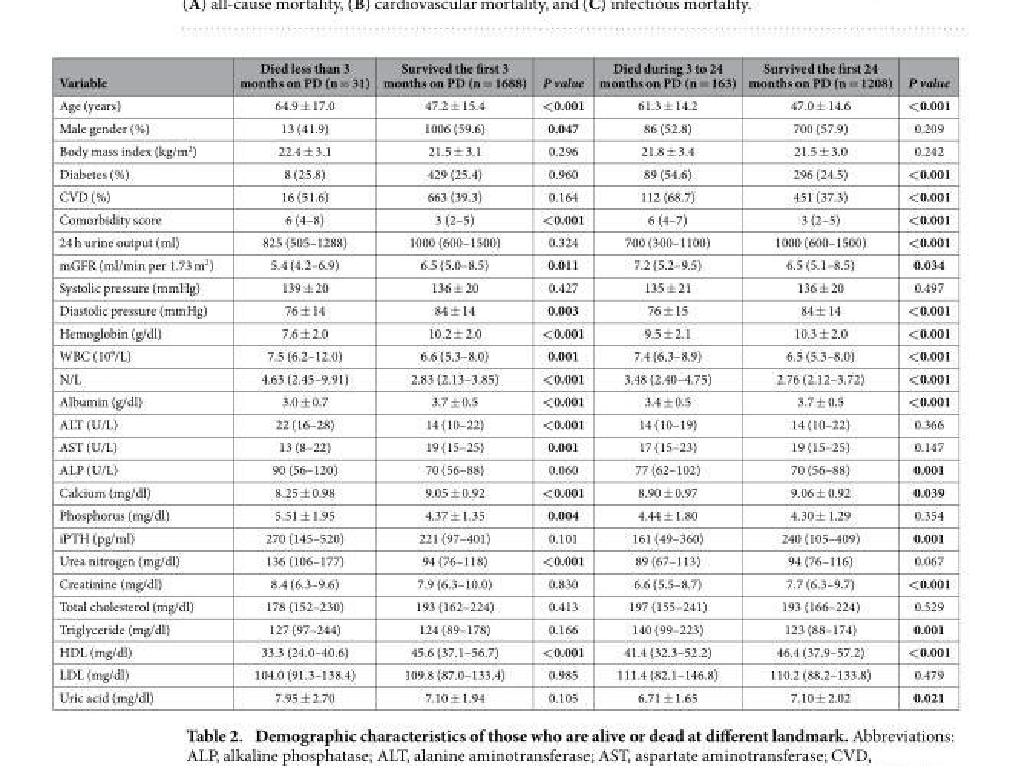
<table><thead><tr><td>Variable</td><td>Died less than 3 months on PD (n = 31)</td><td>Survived the first 3 months on PD (n = 1688)</td><td>P value</td><td>Died during 3 to 24 months on PD (n = 163)</td><td>Survived the first 24 months on PD (n = 1208)</td><td>P value</td></tr></thead><tbody><tr><td>Age (years)</td><td>64.9 ± 17.0</td><td>47.2 ± 15.4</td><td>&lt;0.001</td><td>61.3 ± 14.2</td><td>47.0 ± 14.6</td><td>&lt;0.001</td></tr><tr><td>Male gender (%)</td><td>13 (41.9)</td><td>1006 (59.6)</td><td>0.047</td><td>86 (52.8)</td><td>700 (57.9)</td><td>0.209</td></tr><tr><td>Body mass index (kg/m<sup>2</sup>)</td><td>22.4 ± 3.1</td><td>21.5 ± 3.1</td><td>0.296</td><td>21.8 ± 3.4</td><td>21.5 ± 3.0</td><td>0.242</td></tr><tr><td>Diabetes (%)</td><td>8 (25.8)</td><td>429 (25.4)</td><td>0.960</td><td>89 (54.6)</td><td>296 (24.5)</td><td>&lt;0.001</td></tr><tr><td>CVD (%)</td><td>16 (51.6)</td><td>663 (39.3)</td><td>0.164</td><td>112 (68.7)</td><td>451 (37.3)</td><td>&lt;0.001</td></tr><tr><td>Comorbidity score</td><td>6 (4–8)</td><td>3 (2–5)</td><td>&lt;0.001</td><td>6 (4–7)</td><td>3 (2–5)</td><td>&lt;0.001</td></tr><tr><td>24 h urine output (ml)</td><td>825 (505–1288)</td><td>1000 (600–1500)</td><td>0.324</td><td>700 (300–1100)</td><td>1000 (600–1500)</td><td>&lt;0.001</td></tr><tr><td>mGFR (ml/min per 1.73 m<sup>2</sup>)</td><td>5.4 (4.2–6.9)</td><td>6.5 (5.0–8.5)</td><td>0.011</td><td>7.2 (5.2–9.5)</td><td>6.5 (5.1–8.5)</td><td>0.034</td></tr><tr><td>Systolic pressure (mmHg)</td><td>139 ± 20</td><td>136 ± 20</td><td>0.427</td><td>135 ± 21</td><td>136 ± 20</td><td>0.497</td></tr><tr><td>Diastolic pressure (mmHg)</td><td>76 ± 14</td><td>84 ± 14</td><td>0.003</td><td>76 ± 15</td><td>84 ± 14</td><td>&lt;0.001</td></tr><tr><td>Hemoglobin (g/dl)</td><td>7.6 ± 2.0</td><td>10.2 ± 2.0</td><td>&lt;0.001</td><td>9.5 ± 2.1</td><td>10.3 ± 2.0</td><td>&lt;0.001</td></tr><tr><td>WBC (10<sup>9</sup>/L)</td><td>7.5 (6.2–12.0)</td><td>6.6 (5.3–8.0)</td><td>0.001</td><td>7.4 (6.3–8.9)</td><td>6.5 (5.3–8.0)</td><td>&lt;0.001</td></tr><tr><td>N/L</td><td>4.63 (2.45–9.91)</td><td>2.83 (2.13–3.85)</td><td>&lt;0.001</td><td>3.48 (2.40–4.75)</td><td>2.76 (2.12–3.72)</td><td>&lt;0.001</td></tr><tr><td>Albumin (g/dl)</td><td>3.0 ± 0.7</td><td>3.7 ± 0.5</td><td>&lt;0.001</td><td>3.4 ± 0.5</td><td>3.7 ± 0.5</td><td>&lt;0.001</td></tr><tr><td>ALT (U/L)</td><td>22 (16–28)</td><td>14 (10–22)</td><td>&lt;0.001</td><td>14 (10–19)</td><td>14 (10–22)</td><td>0.366</td></tr><tr><td>AST (U/L)</td><td>13 (8–22)</td><td>19 (15–25)</td><td>0.001</td><td>17 (15–23)</td><td>19 (15–25)</td><td>0.147</td></tr><tr><td>ALP (U/L)</td><td>90 (56–120)</td><td>70 (56–88)</td><td>0.060</td><td>77 (62–102)</td><td>70 (56–88)</td><td>0.001</td></tr><tr><td>Calcium (mg/dl)</td><td>8.25 ± 0.98</td><td>9.05 ± 0.92</td><td>&lt;0.001</td><td>8.90 ± 0.97</td><td>9.06 ± 0.92</td><td>0.039</td></tr><tr><td>Phosphorus (mg/dl)</td><td>5.51 ± 1.95</td><td>4.37 ± 1.35</td><td>0.004</td><td>4.44 ± 1.80</td><td>4.30 ± 1.29</td><td>0.354</td></tr><tr><td>iPTH (pg/ml)</td><td>270 (145–520)</td><td>221 (97–401)</td><td>0.101</td><td>161 (49–360)</td><td>240 (105–409)</td><td>0.001</td></tr><tr><td>Urea nitrogen (mg/dl)</td><td>136 (106–177)</td><td>94 (76–118)</td><td>&lt;0.001</td><td>89 (67–113)</td><td>94 (76–116)</td><td>0.067</td></tr><tr><td>Creatinine (mg/dl)</td><td>8.4 (6.3–9.6)</td><td>7.9 (6.3–10.0)</td><td>0.830</td><td>6.6 (5.5–8.7)</td><td>7.7 (6.3–9.7)</td><td>&lt;0.001</td></tr><tr><td>Total cholesterol (mg/dl)</td><td>178 (152–230)</td><td>193 (162–224)</td><td>0.413</td><td>197 (155–241)</td><td>193 (166–224)</td><td>0.529</td></tr><tr><td>Triglyceride (mg/dl)</td><td>127 (97–244)</td><td>124 (89–178)</td><td>0.166</td><td>140 (99–223)</td><td>123 (88–174)</td><td>0.001</td></tr><tr><td>HDL (mg/dl)</td><td>33.3 (24.0–40.6)</td><td>45.6 (37.1–56.7)</td><td>&lt;0.001</td><td>41.4 (32.3–52.2)</td><td>46.4 (37.9–57.2)</td><td>&lt;0.001</td></tr><tr><td>LDL (mg/dl)</td><td>104.0 (91.3–138.4)</td><td>109.8 (87.0–133.4)</td><td>0.985</td><td>111.4 (82.1–146.8)</td><td>110.2 (88.2–133.8)</td><td>0.479</td></tr><tr><td>Uric acid (mg/dl)</td><td>7.95 ± 2.70</td><td>7.10 ± 1.94</td><td>0.105</td><td>6.71 ± 1.65</td><td>7.10 ± 2.02</td><td>0.021</td></tr></tbody></table>